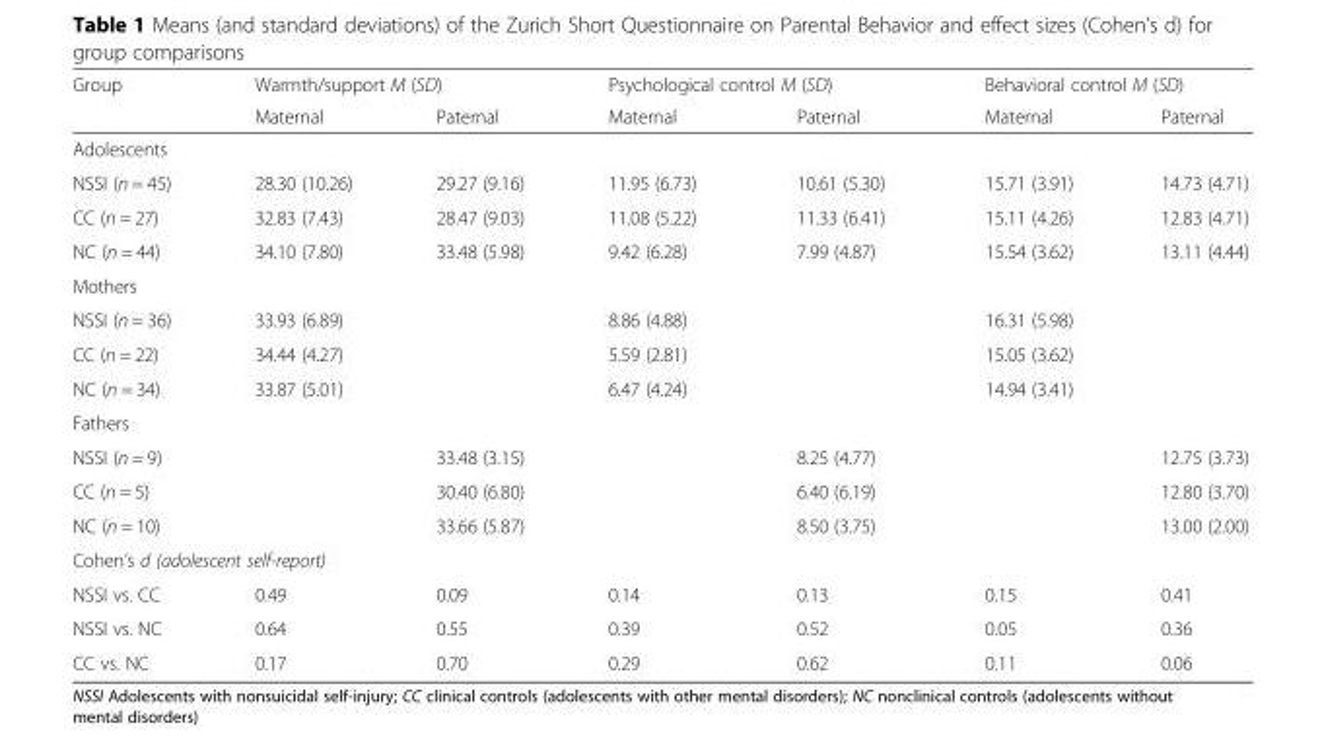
<table><thead><tr><td rowspan="2">Group</td><td colspan="2">Warmth/support M (SD)</td><td colspan="2">Psychological control M (SD)</td><td colspan="2">Behavioral control M (SD)</td></tr><tr><td>Maternal</td><td>Paternal</td><td>Maternal</td><td>Paternal</td><td>Maternal</td><td>Paternal</td></tr></thead><tbody><tr><td colspan="7">Adolescents</td></tr><tr><td>NSSI (n = 45)</td><td>28.30 (10.26)</td><td>29.27 (9.16)</td><td>11.95 (6.73)</td><td>10.61 (5.30)</td><td>15.71 (3.91)</td><td>14.73 (4.71)</td></tr><tr><td>CC (n = 27)</td><td>32.83 (7.43)</td><td>28.47 (9.03)</td><td>11.08 (5.22)</td><td>11.33 (6.41)</td><td>15.11 (4.26)</td><td>12.83 (4.71)</td></tr><tr><td>NC (n = 44)</td><td>34.10 (7.80)</td><td>33.48 (5.98)</td><td>9.42 (6.28)</td><td>7.99 (4.87)</td><td>15.54 (3.62)</td><td>13.11 (4.44)</td></tr><tr><td colspan="7">Mothers</td></tr><tr><td>NSSI (n = 36)</td><td>33.93 (6.89)</td><td></td><td>8.86 (4.88)</td><td></td><td>16.31 (5.98)</td><td></td></tr><tr><td>CC (n = 22)</td><td>34.44 (4.27)</td><td></td><td>5.59 (2.81)</td><td></td><td>15.05 (3.62)</td><td></td></tr><tr><td>NC (n = 34)</td><td>33.87 (5.01)</td><td></td><td>6.47 (4.24)</td><td></td><td>14.94 (3.41)</td><td></td></tr><tr><td colspan="7">Fathers</td></tr><tr><td>NSSI (n = 9)</td><td></td><td>33.48 (3.15)</td><td></td><td>8.25 (4.77)</td><td></td><td>12.75 (3.73)</td></tr><tr><td>CC (n = 5)</td><td></td><td>30.40 (6.80)</td><td></td><td>6.40 (6.19)</td><td></td><td>12.80 (3.70)</td></tr><tr><td>NC (n = 10)</td><td></td><td>33.66 (5.87)</td><td></td><td>8.50 (3.75)</td><td></td><td>13.00 (2.00)</td></tr><tr><td colspan="7">Cohen’s d (adolescent self-report)</td></tr><tr><td>NSSI vs. CC</td><td>0.49</td><td>0.09</td><td>0.14</td><td>0.13</td><td>0.15</td><td>0.41</td></tr><tr><td>NSSI vs. NC</td><td>0.64</td><td>0.55</td><td>0.39</td><td>0.52</td><td>0.05</td><td>0.36</td></tr><tr><td>CC vs. NC</td><td>0.17</td><td>0.70</td><td>0.29</td><td>0.62</td><td>0.11</td><td>0.06</td></tr></tbody></table>